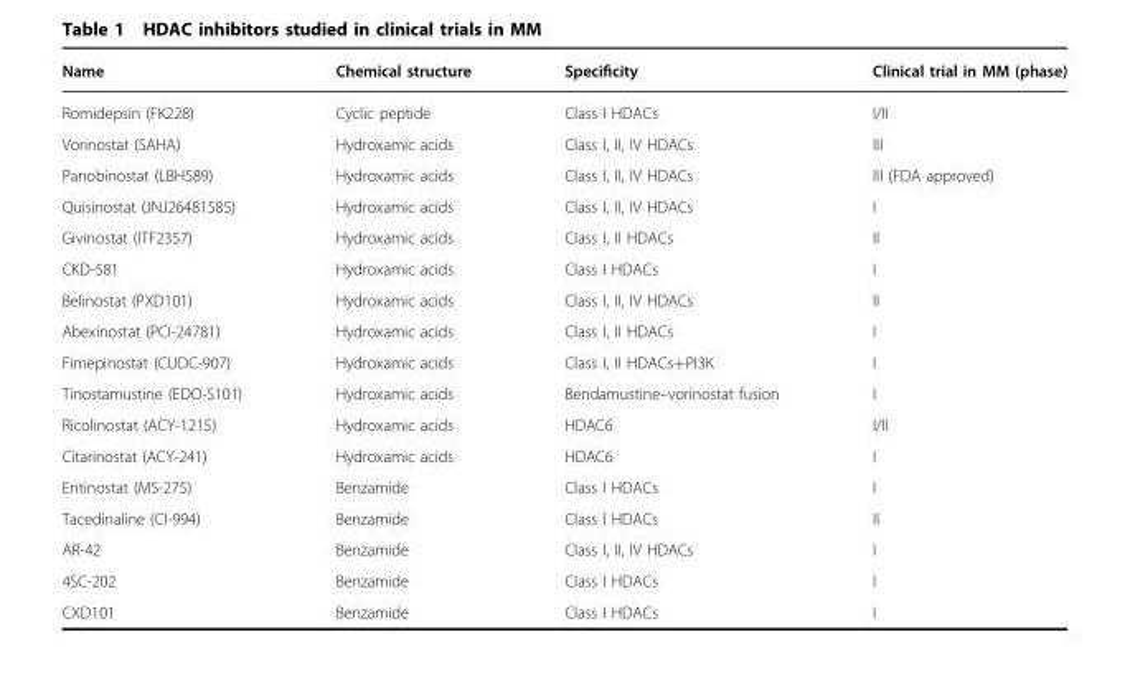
<table><thead><tr><td>Name</td><td>Chemical structure</td><td>Specificity</td><td>Clinical trial in MM (phase)</td></tr></thead><tbody><tr><td>Romidepsin (FK228)</td><td>Cyclic peptide</td><td>Class I HDACs</td><td>I/II</td></tr><tr><td>Vorinostat (SAHA)</td><td>Hydroxamic acids</td><td>Class I, II, IV HDACs</td><td>III</td></tr><tr><td>Panobinostat (LBH589)</td><td>Hydroxamic acids</td><td>Class I, II, IV HDACs</td><td>III (FDA approved)</td></tr><tr><td>Quisinostat (JNJ26481585)</td><td>Hydroxamic acids</td><td>Class I, II, IV HDACs</td><td>I</td></tr><tr><td>Givinostat (ITF2357)</td><td>Hydroxamic acids</td><td>Class I, II HDACs</td><td>II</td></tr><tr><td>CKD-581</td><td>Hydroxamic acids</td><td>Class I HDACs</td><td>I</td></tr><tr><td>Belinostat (PXD101)</td><td>Hydroxamic acids</td><td>Class I, II, IV HDACs</td><td>II</td></tr><tr><td>Abexinostat (PCI-24781)</td><td>Hydroxamic acids</td><td>Class I, II HDACs</td><td>I</td></tr><tr><td>Fimepinostat (CUDC-907)</td><td>Hydroxamic acids</td><td>Class I, II HDACs+PI3K</td><td>I</td></tr><tr><td>Tinostamustine (EDO-S101)</td><td>Hydroxamic acids</td><td>Bendamustine–vorinostat fusion</td><td>I</td></tr><tr><td>Ricolinostat (ACY-1215)</td><td>Hydroxamic acids</td><td>HDAC6</td><td>I/II</td></tr><tr><td>Citarinostat (ACY-241)</td><td>Hydroxamic acids</td><td>HDAC6</td><td>I</td></tr><tr><td>Entinostat (MS-275)</td><td>Benzamide</td><td>Class I HDACs</td><td>I</td></tr><tr><td>Tacedinaline (CI-994)</td><td>Benzamide</td><td>Class I HDACs</td><td>II</td></tr><tr><td>AR-42</td><td>Benzamide</td><td>Class I, II, IV HDACs</td><td>I</td></tr><tr><td>4SC-202</td><td>Benzamide</td><td>Class I HDACs</td><td>I</td></tr><tr><td>CXD101</td><td>Benzamide</td><td>Class I HDACs</td><td>I</td></tr></tbody></table>